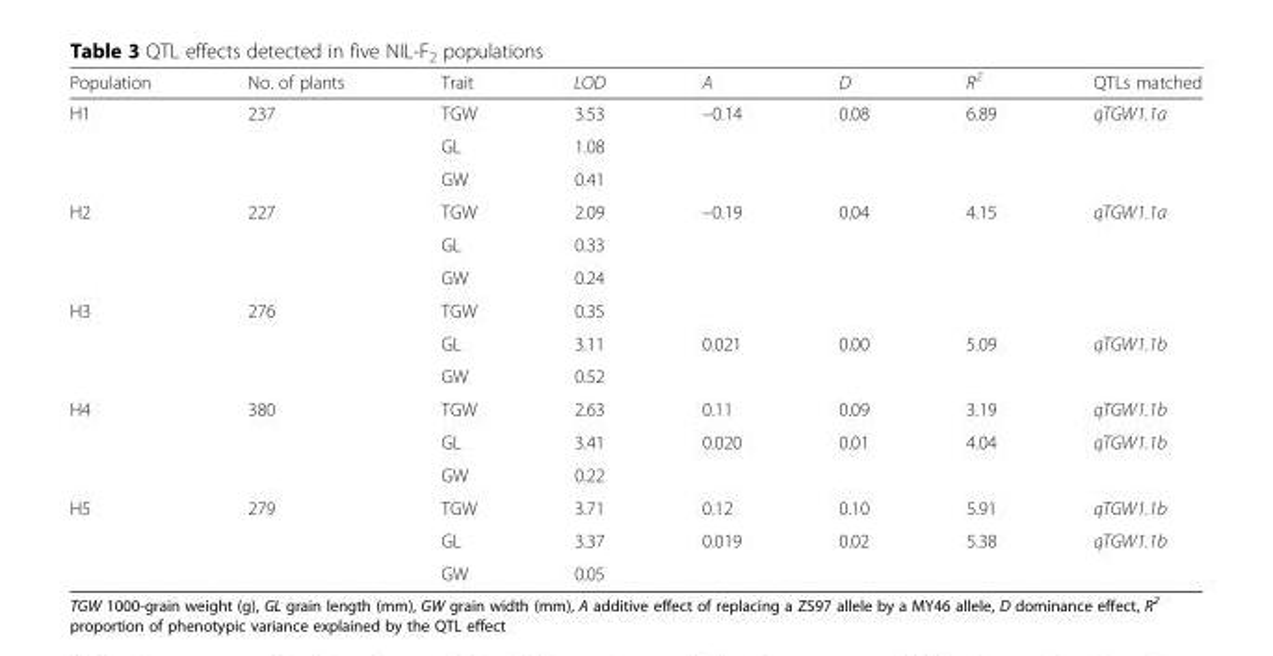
<table><thead><tr><td>Population</td><td>No. of plants</td><td>Trait</td><td>LOD</td><td>A</td><td>D</td><td>R<sup>2</sup></td><td>QTLs matched</td></tr></thead><tbody><tr><td rowspan="3">H1</td><td>237</td><td>TGW</td><td>3.53</td><td>–0.14</td><td>0.08</td><td>6.89</td><td>qTGW1.1a</td></tr><tr><td></td><td>GL</td><td>1.08</td><td></td><td></td><td></td><td></td></tr><tr><td></td><td>GW</td><td>0.41</td><td></td><td></td><td></td><td></td></tr><tr><td rowspan="3">H2</td><td>227</td><td>TGW</td><td>2.09</td><td>–0.19</td><td>0.04</td><td>4.15</td><td>qTGW1.1a</td></tr><tr><td></td><td>GL</td><td>0.33</td><td></td><td></td><td></td><td></td></tr><tr><td></td><td>GW</td><td>0.24</td><td></td><td></td><td></td><td></td></tr><tr><td rowspan="3">H3</td><td>276</td><td>TGW</td><td>0.35</td><td></td><td></td><td></td><td></td></tr><tr><td></td><td>GL</td><td>3.11</td><td>0.021</td><td>0.00</td><td>5.09</td><td>qTGW1.1b</td></tr><tr><td></td><td>GW</td><td>0.52</td><td></td><td></td><td></td><td></td></tr><tr><td rowspan="3">H4</td><td>380</td><td>TGW</td><td>2.63</td><td>0.11</td><td>0.09</td><td>3.19</td><td>qTGW1.1b</td></tr><tr><td></td><td>GL</td><td>3.41</td><td>0.020</td><td>0.01</td><td>4.04</td><td>qTGW1.1b</td></tr><tr><td></td><td>GW</td><td>0.22</td><td></td><td></td><td></td><td></td></tr><tr><td rowspan="3">H5</td><td>279</td><td>TGW</td><td>3.71</td><td>0.12</td><td>0.10</td><td>5.91</td><td>qTGW1.1b</td></tr><tr><td></td><td>GL</td><td>3.37</td><td>0.019</td><td>0.02</td><td>5.38</td><td>qTGW1.1b</td></tr><tr><td></td><td>GW</td><td>0.05</td><td></td><td></td><td></td><td></td></tr></tbody></table>